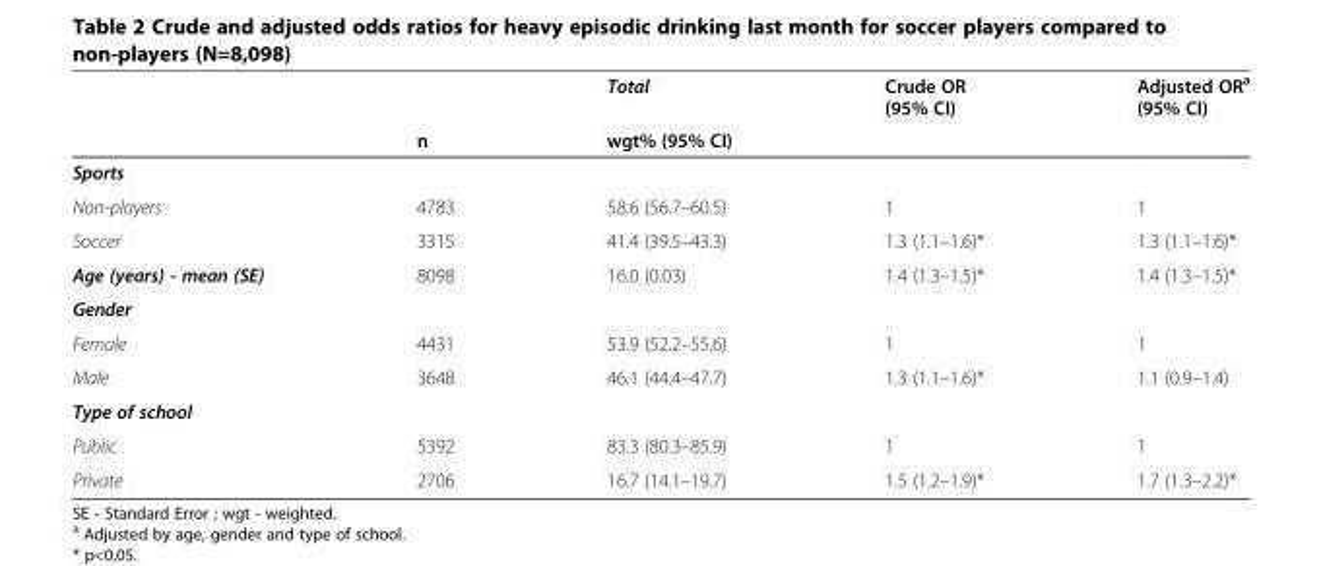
<table><thead><tr><td rowspan="2"></td><td rowspan="2">n</td><td rowspan="2">Total wgt% (95% CI)</td><td rowspan="2">Crude OR (95% CI)</td><td rowspan="2">Adjusted OR<sup>a</sup> (95% CI)</td></tr><tr></tr></thead><tbody><tr><td colspan="5">Sports</td></tr><tr><td>Non-players</td><td>4783</td><td>58.6 (56.7–60.5)</td><td>1</td><td>1</td></tr><tr><td>Soccer</td><td>3315</td><td>41.4 (39.5–43.3)</td><td>1.3 (1.1–1.6)*</td><td>1.3 (1.1–1.6)*</td></tr><tr><td>Age (years) - mean (SE)</td><td>8098</td><td>16.0 (0.03)</td><td>1.4 (1.3–1.5)*</td><td>1.4 (1.3–1.5)*</td></tr><tr><td colspan="5">Gender</td></tr><tr><td>Female</td><td>4431</td><td>53.9 (52.2–55.6)</td><td>1</td><td>1</td></tr><tr><td>Male</td><td>3648</td><td>46.1 (44.4–47.7)</td><td>1.3 (1.1–1.6)*</td><td>1.1 (0.9–1.4)</td></tr><tr><td colspan="5">Type of school</td></tr><tr><td>Public</td><td>5392</td><td>83.3 (80.3–85.9)</td><td>1</td><td>1</td></tr><tr><td>Private</td><td>2706</td><td>16.7 (14.1–19.7)</td><td>1.5 (1.2–1.9)*</td><td>1.7 (1.3–2.2)*</td></tr></tbody></table>